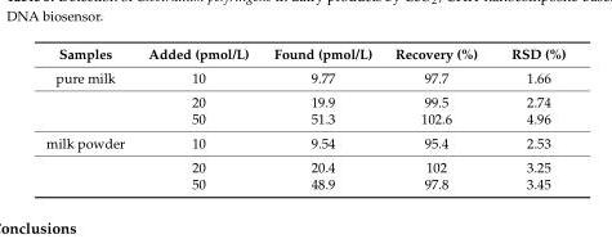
<table><thead><tr><td>Samples</td><td>Added (pmol/L)</td><td>Found (pmol/L)</td><td>Recovery (%)</td><td>RSD (%)</td></tr></thead><tbody><tr><td rowspan="3">pure milk</td><td>10</td><td>9.77</td><td>97.7</td><td>1.66</td></tr><tr><td>20</td><td>19.9</td><td>99.5</td><td>2.74</td></tr><tr><td>50</td><td>51.3</td><td>102.6</td><td>4.96</td></tr><tr><td rowspan="3">milk powder</td><td>10</td><td>9.54</td><td>95.4</td><td>2.53</td></tr><tr><td>20</td><td>20.4</td><td>102</td><td>3.25</td></tr><tr><td>50</td><td>48.9</td><td>97.8</td><td>3.45</td></tr></tbody></table>